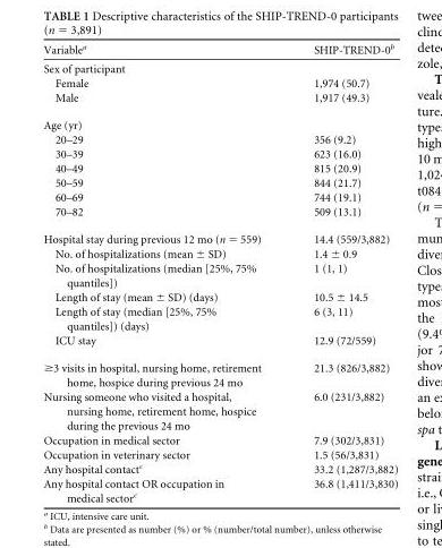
<table><thead><tr><td>Variable<sup>a</sup></td><td>SHIP-TREND-0<sup>b</sup></td></tr></thead><tbody><tr><td colspan="2">Sex of participant</td></tr><tr><td>Female</td><td>1,974 (50.7)</td></tr><tr><td>Male</td><td>1,917 (49.3)</td></tr><tr><td colspan="2">Age (yr)</td></tr><tr><td>20–29</td><td>356 (9.2)</td></tr><tr><td>30–39</td><td>623 (16.0)</td></tr><tr><td>40–49</td><td>815 (20.9)</td></tr><tr><td>50–59</td><td>844 (21.7)</td></tr><tr><td>60–69</td><td>744 (19.1)</td></tr><tr><td>70–82</td><td>509 (13.1)</td></tr><tr><td>Hospital stay during previous 12 mo (n = 559)</td><td>14.4 (559/3,882)</td></tr><tr><td>No. of hospitalizations (mean ± SD)</td><td>1.4 ± 0.9</td></tr><tr><td>No. of hospitalizations (median [25%, 75% quantiles])</td><td>1 (1, 1)</td></tr><tr><td>Length of stay (mean ± SD) (days)</td><td>10.5 ± 14.5</td></tr><tr><td>Length of stay (median [25%, 75% quantiles]) (days)</td><td>6 (3, 11)</td></tr><tr><td>ICU stay</td><td>12.9 (72/559)</td></tr><tr><td>≥3 visits in hospital, nursing home, retirement home, hospice during previous 24 mo</td><td>21.3 (826/3,882)</td></tr><tr><td>Nursing someone who visited a hospital, nursing home, retirement home, hospice during the previous 24 mo</td><td>6.0 (231/3,882)</td></tr><tr><td>Occupation in medical sector</td><td>7.9 (302/3,831)</td></tr><tr><td>Occupation in veterinary sector</td><td>1.5 (56/3,831)</td></tr><tr><td>Any hospital contact<sup>c</sup></td><td>33.2 (1,287/3,882)</td></tr><tr><td>Any hospital contact OR occupation in medical sector<sup>c</sup></td><td>36.8 (1,411/3,830)</td></tr></tbody></table>